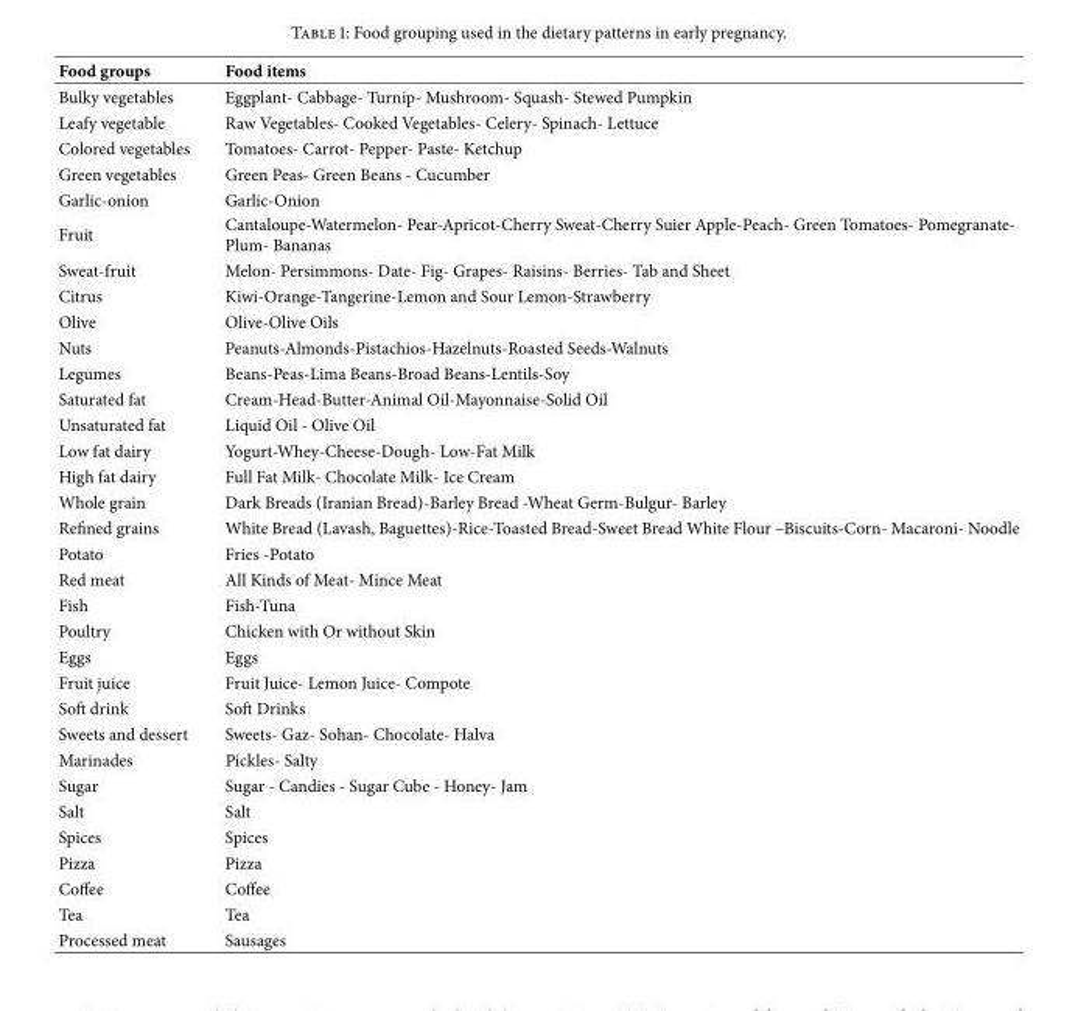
<table><thead><tr><td>Food groups</td><td>Food items</td></tr></thead><tbody><tr><td>Bulky vegetables</td><td>Eggplant- Cabbage- Turnip- Mushroom- Squash- Stewed Pumpkin</td></tr><tr><td>Leafy vegetable</td><td>Raw Vegetables- Cooked Vegetables- Celery- Spinach- Lettuce</td></tr><tr><td>Colored vegetables</td><td>Tomatoes- Carrot- Pepper- Paste- Ketchup</td></tr><tr><td>Green vegetables</td><td>Green Peas- Green Beans - Cucumber</td></tr><tr><td>Garlic-onion</td><td>Garlic-Onion</td></tr><tr><td>Fruit</td><td>Cantaloupe-Watermelon- Pear-Apricot-Cherry Sweat-Cherry Suier Apple-Peach- Green Tomatoes- Pomegranate- Plum- Bananas</td></tr><tr><td>Sweat-fruit</td><td>Melon- Persimmons- Date- Fig- Grapes- Raisins- Berries- Tab and Sheet</td></tr><tr><td>Citrus</td><td>Kiwi-Orange-Tangerine-Lemon and Sour Lemon-Strawberry</td></tr><tr><td>Olive</td><td>Olive-Olive Oils</td></tr><tr><td>Nuts</td><td>Peanuts-Almonds-Pistachios-Hazelnuts-Roasted Seeds-Walnuts</td></tr><tr><td>Legumes</td><td>Beans-Peas-Lima Beans-Broad Beans-Lentils-Soy</td></tr><tr><td>Saturated fat</td><td>Cream-Head-Butter-Animal Oil-Mayonnaise-Solid Oil</td></tr><tr><td>Unsaturated fat</td><td>Liquid Oil - Olive Oil</td></tr><tr><td>Low fat dairy</td><td>Yogurt-Whey-Cheese-Dough- Low-Fat Milk</td></tr><tr><td>High fat dairy</td><td>Full Fat Milk- Chocolate Milk- Ice Cream</td></tr><tr><td>Whole grain</td><td>Dark Breads (Iranian Bread)-Barley Bread -Wheat Germ-Bulgur- Barley</td></tr><tr><td>Refined grains</td><td>White Bread (Lavash, Baguettes)-Rice-Toasted Bread-Sweet Bread White Flour –Biscuits-Corn- Macaroni- Noodle</td></tr><tr><td>Potato</td><td>Fries -Potato</td></tr><tr><td>Red meat</td><td>All Kinds of Meat- Mince Meat</td></tr><tr><td>Fish</td><td>Fish-Tuna</td></tr><tr><td>Poultry</td><td>Chicken with Or without Skin</td></tr><tr><td>Eggs</td><td>Eggs</td></tr><tr><td>Fruit juice</td><td>Fruit Juice- Lemon Juice- Compote</td></tr><tr><td>Soft drink</td><td>Soft Drinks</td></tr><tr><td>Sweets and dessert</td><td>Sweets- Gaz- Sohan- Chocolate- Halva</td></tr><tr><td>Marinades</td><td>Pickles- Salty</td></tr><tr><td>Sugar</td><td>Sugar - Candies - Sugar Cube - Honey- Jam</td></tr><tr><td>Salt</td><td>Salt</td></tr><tr><td>Spices</td><td>Spices</td></tr><tr><td>Pizza</td><td>Pizza</td></tr><tr><td>Coffee</td><td>Coffee</td></tr><tr><td>Tea</td><td>Tea</td></tr><tr><td>Processed meat</td><td>Sausages</td></tr></tbody></table>